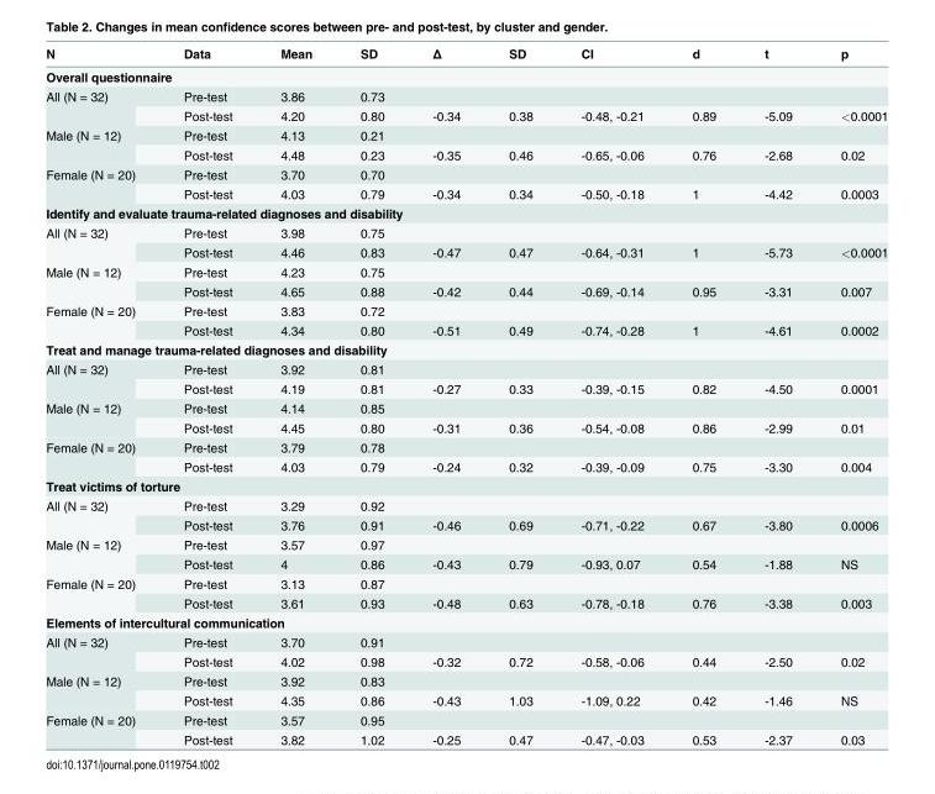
<table><thead><tr><td>N</td><td>Data</td><td>Mean</td><td>SD</td><td>Δ</td><td>SD</td><td>CI</td><td>d</td><td>t</td><td>p</td></tr></thead><tbody><tr><td colspan="10">Overall questionnaire</td></tr><tr><td rowspan="2">All (N = 32)</td><td>Pre-test</td><td>3.86</td><td>0.73</td><td></td><td></td><td></td><td></td><td></td><td></td></tr><tr><td>Post-test</td><td>4.20</td><td>0.80</td><td>-0.34</td><td>0.38</td><td>-0.48, -0.21</td><td>0.89</td><td>-5.09</td><td>&lt;0.0001</td></tr><tr><td rowspan="2">Male (N = 12)</td><td>Pre-test</td><td>4.13</td><td>0.21</td><td></td><td></td><td></td><td></td><td></td><td></td></tr><tr><td>Post-test</td><td>4.48</td><td>0.23</td><td>-0.35</td><td>0.46</td><td>-0.65, -0.06</td><td>0.76</td><td>-2.68</td><td>0.02</td></tr><tr><td rowspan="2">Female (N = 20)</td><td>Pre-test</td><td>3.70</td><td>0.70</td><td></td><td></td><td></td><td></td><td></td><td></td></tr><tr><td>Post-test</td><td>4.03</td><td>0.79</td><td>-0.34</td><td>0.34</td><td>-0.50, -0.18</td><td>1</td><td>-4.42</td><td>0.0003</td></tr><tr><td colspan="10">Identify and evaluate trauma-related diagnoses and disability</td></tr><tr><td rowspan="2">All (N = 32)</td><td>Pre-test</td><td>3.98</td><td>0.75</td><td></td><td></td><td></td><td></td><td></td><td></td></tr><tr><td>Post-test</td><td>4.46</td><td>0.83</td><td>-0.47</td><td>0.47</td><td>-0.64, -0.31</td><td>1</td><td>-5.73</td><td>&lt;0.0001</td></tr><tr><td rowspan="2">Male (N = 12)</td><td>Pre-test</td><td>4.23</td><td>0.75</td><td></td><td></td><td></td><td></td><td></td><td></td></tr><tr><td>Post-test</td><td>4.65</td><td>0.88</td><td>-0.42</td><td>0.44</td><td>-0.69, -0.14</td><td>0.95</td><td>-3.31</td><td>0.007</td></tr><tr><td rowspan="2">Female (N = 20)</td><td>Pre-test</td><td>3.83</td><td>0.72</td><td></td><td></td><td></td><td></td><td></td><td></td></tr><tr><td>Post-test</td><td>4.34</td><td>0.80</td><td>-0.51</td><td>0.49</td><td>-0.74, -0.28</td><td>1</td><td>-4.61</td><td>0.0002</td></tr><tr><td colspan="10">Treat and manage trauma-related diagnoses and disability</td></tr><tr><td rowspan="2">All (N = 32)</td><td>Pre-test</td><td>3.92</td><td>0.81</td><td></td><td></td><td></td><td></td><td></td><td></td></tr><tr><td>Post-test</td><td>4.19</td><td>0.81</td><td>-0.27</td><td>0.33</td><td>-0.39, -0.15</td><td>0.82</td><td>-4.50</td><td>0.0001</td></tr><tr><td rowspan="2">Male (N = 12)</td><td>Pre-test</td><td>4.14</td><td>0.85</td><td></td><td></td><td></td><td></td><td></td><td></td></tr><tr><td>Post-test</td><td>4.45</td><td>0.80</td><td>-0.31</td><td>0.36</td><td>-0.54, -0.08</td><td>0.86</td><td>-2.99</td><td>0.01</td></tr><tr><td rowspan="2">Female (N = 20)</td><td>Pre-test</td><td>3.79</td><td>0.78</td><td></td><td></td><td></td><td></td><td></td><td></td></tr><tr><td>Post-test</td><td>4.03</td><td>0.79</td><td>-0.24</td><td>0.32</td><td>-0.39, -0.09</td><td>0.75</td><td>-3.30</td><td>0.004</td></tr><tr><td colspan="10">Treat victims of torture</td></tr><tr><td rowspan="2">All (N = 32)</td><td>Pre-test</td><td>3.29</td><td>0.92</td><td></td><td></td><td></td><td></td><td></td><td></td></tr><tr><td>Post-test</td><td>3.76</td><td>0.91</td><td>-0.46</td><td>0.69</td><td>-0.71, -0.22</td><td>0.67</td><td>-3.80</td><td>0.0006</td></tr><tr><td rowspan="2">Male (N = 12)</td><td>Pre-test</td><td>3.57</td><td>0.97</td><td></td><td></td><td></td><td></td><td></td><td></td></tr><tr><td>Post-test</td><td>4</td><td>0.86</td><td>-0.43</td><td>0.79</td><td>-0.93, 0.07</td><td>0.54</td><td>-1.88</td><td>NS</td></tr><tr><td rowspan="2">Female (N = 20)</td><td>Pre-test</td><td>3.13</td><td>0.87</td><td></td><td></td><td></td><td></td><td></td><td></td></tr><tr><td>Post-test</td><td>3.61</td><td>0.93</td><td>-0.48</td><td>0.63</td><td>-0.78, -0.18</td><td>0.76</td><td>-3.38</td><td>0.003</td></tr><tr><td colspan="10">Elements of intercultural communication</td></tr><tr><td rowspan="2">All (N = 32)</td><td>Pre-test</td><td>3.70</td><td>0.91</td><td></td><td></td><td></td><td></td><td></td><td></td></tr><tr><td>Post-test</td><td>4.02</td><td>0.98</td><td>-0.32</td><td>0.72</td><td>-0.58, -0.06</td><td>0.44</td><td>-2.50</td><td>0.02</td></tr><tr><td rowspan="2">Male (N = 12)</td><td>Pre-test</td><td>3.92</td><td>0.83</td><td></td><td></td><td></td><td></td><td></td><td></td></tr><tr><td>Post-test</td><td>4.35</td><td>0.86</td><td>-0.43</td><td>1.03</td><td>-1.09, 0.22</td><td>0.42</td><td>-1.46</td><td>NS</td></tr><tr><td rowspan="2">Female (N = 20)</td><td>Pre-test</td><td>3.57</td><td>0.95</td><td></td><td></td><td></td><td></td><td></td><td></td></tr><tr><td>Post-test</td><td>3.82</td><td>1.02</td><td>-0.25</td><td>0.47</td><td>-0.47, -0.03</td><td>0.53</td><td>-2.37</td><td>0.03</td></tr></tbody></table>